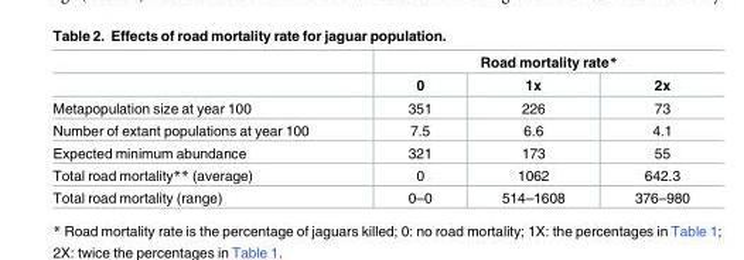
<table><thead><tr><td rowspan="2"></td><td colspan="3">Road mortality rate*</td></tr><tr><td>0</td><td>1x</td><td>2x</td></tr></thead><tbody><tr><td>Metapopulation size at year 100</td><td>351</td><td>226</td><td>73</td></tr><tr><td>Number of extant populations at year 100</td><td>7.5</td><td>6.6</td><td>4.1</td></tr><tr><td>Expected minimum abundance</td><td>321</td><td>173</td><td>55</td></tr><tr><td>Total road mortality** (average)</td><td>0</td><td>1062</td><td>642.3</td></tr><tr><td>Total road mortality (range)</td><td>0–0</td><td>514–1608</td><td>376–980</td></tr></tbody></table>